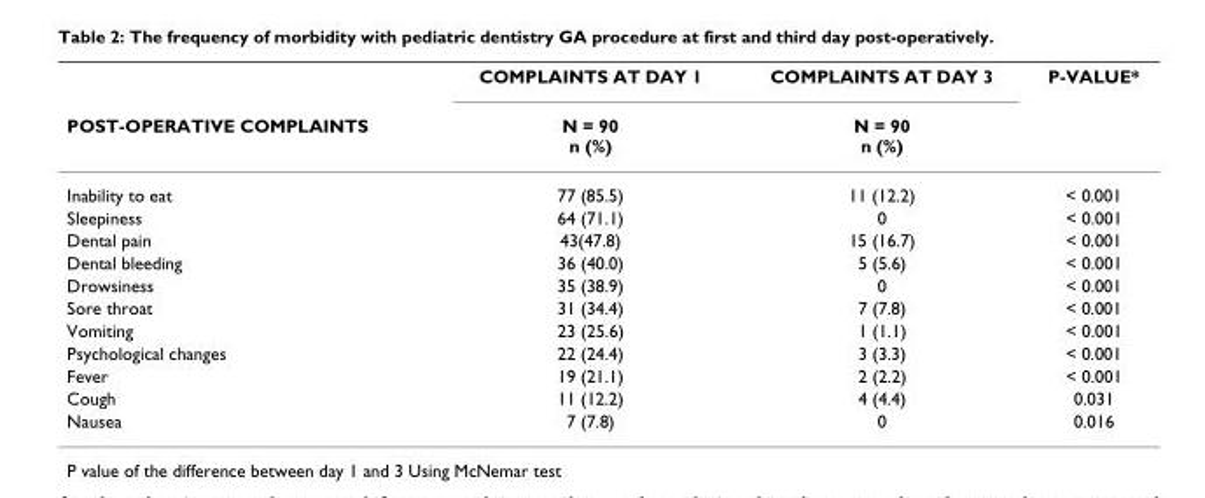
<table><thead><tr><td rowspan="2">POST-OPERATIVE COMPLAINTS</td><td rowspan="2">COMPLAINTS AT DAY 1 N = 90 n (%)</td><td rowspan="2">COMPLAINTS AT DAY 3 N = 90 n (%)</td><td rowspan="2">P-VALUE*</td></tr><tr></tr></thead><tbody><tr><td>Inability to eat</td><td>77 (85.5)</td><td>11 (12.2)</td><td>&lt; 0.001</td></tr><tr><td>Sleepiness</td><td>64 (71.1)</td><td>0</td><td>&lt; 0.001</td></tr><tr><td>Dental pain</td><td>43(47.8)</td><td>15 (16.7)</td><td>&lt; 0.001</td></tr><tr><td>Dental bleeding</td><td>36 (40.0)</td><td>5 (5.6)</td><td>&lt; 0.001</td></tr><tr><td>Drowsiness</td><td>35 (38.9)</td><td>0</td><td>&lt; 0.001</td></tr><tr><td>Sore throat</td><td>31 (34.4)</td><td>7 (7.8)</td><td>&lt; 0.001</td></tr><tr><td>Vomiting</td><td>23 (25.6)</td><td>1 (1.1)</td><td>&lt; 0.001</td></tr><tr><td>Psychological changes</td><td>22 (24.4)</td><td>3 (3.3)</td><td>&lt; 0.001</td></tr><tr><td>Fever</td><td>19 (21.1)</td><td>2 (2.2)</td><td>&lt; 0.001</td></tr><tr><td>Cough</td><td>11 (12.2)</td><td>4 (4.4)</td><td>0.031</td></tr><tr><td>Nausea</td><td>7 (7.8)</td><td>0</td><td>0.016</td></tr></tbody></table>